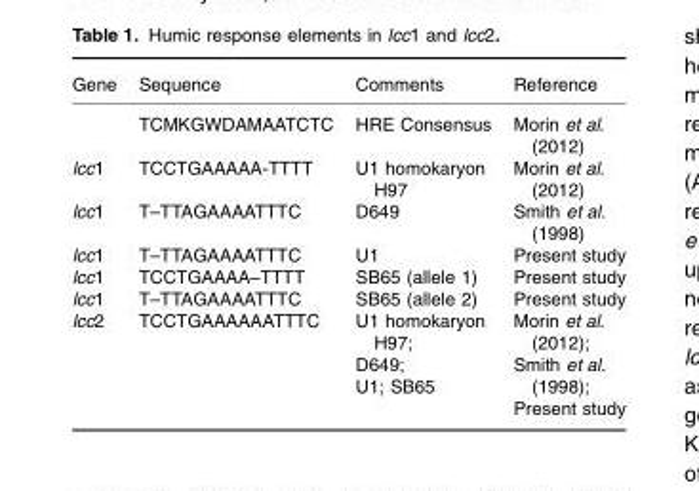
<table><thead><tr><td>Gene</td><td>Sequence</td><td>Comments</td><td>Reference</td></tr></thead><tbody><tr><td></td><td>TCMKGWDAMAATCTC</td><td>HRE Consensus</td><td>Morin et al. (2012)</td></tr><tr><td>lcc1</td><td>TCCTGAAAAA-TTTT</td><td>U1 homokaryon H97</td><td>Morin et al. (2012)</td></tr><tr><td>lcc1</td><td>T–TTAGAAAATTTC</td><td>D649</td><td>Smith et al. (1998)</td></tr><tr><td>lcc1</td><td>T–TTAGAAAATTTC</td><td>U1</td><td>Present study</td></tr><tr><td>lcc1</td><td>TCCTGAAAA–TTTT</td><td>SB65 (allele 1)</td><td>Present study</td></tr><tr><td>lcc1</td><td>T–TTAGAAAATTTC</td><td>SB65 (allele 2)</td><td>Present study</td></tr><tr><td>lcc2</td><td>TCCTGAAAAAATTTC</td><td>U1 homokaryon H97; D649; U1; SB65</td><td>Morin et al. (2012); Smith et al. (1998); Present study</td></tr></tbody></table>